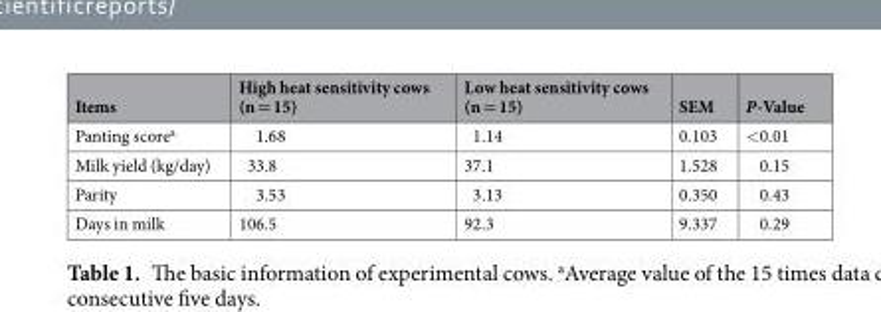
<table><thead><tr><td>Items</td><td>High heat sensitivity cows (n = 15)</td><td>Low heat sensitivity cows (n = 15)</td><td>SEM</td><td>P-Value</td></tr></thead><tbody><tr><td>Panting score<sup>a</sup></td><td>1.68</td><td>1.14</td><td>0.103</td><td>&lt;0.01</td></tr><tr><td>Milk yield (kg/day)</td><td>33.8</td><td>37.1</td><td>1.528</td><td>0.15</td></tr><tr><td>Parity</td><td>3.53</td><td>3.13</td><td>0.350</td><td>0.43</td></tr><tr><td>Days in milk</td><td>106.5</td><td>92.3</td><td>9.337</td><td>0.29</td></tr></tbody></table>